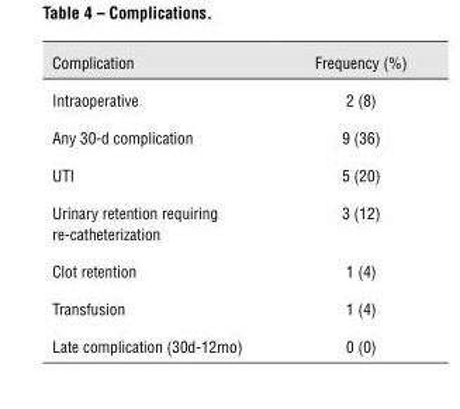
<table><thead><tr><td>Complication</td><td>Frequency (%)</td></tr></thead><tbody><tr><td>Intraoperative</td><td>2 (8)</td></tr><tr><td>Any 30-d complication</td><td>9 (36)</td></tr><tr><td>UTI</td><td>5 (20)</td></tr><tr><td>Urinary retention requiring re-catheterization</td><td>3 (12)</td></tr><tr><td>Clot retention</td><td>1 (4)</td></tr><tr><td>Transfusion</td><td>1 (4)</td></tr><tr><td>Late complication (30d-12mo)</td><td>0 (0)</td></tr></tbody></table>